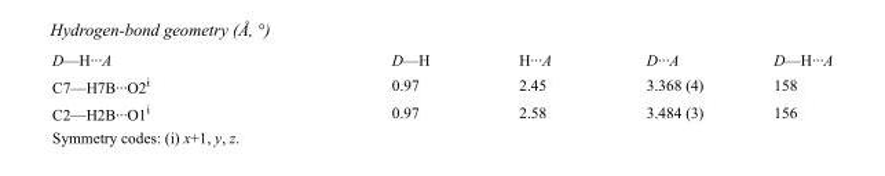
<table><tbody><tr><td>D—H···A</td><td>D—H</td><td>H···A</td><td>D···A</td><td>D—H···A</td></tr><tr><td>C7—H7B···O2<sup>i</sup></td><td>0.97</td><td>2.45</td><td>3.368 (4)</td><td>158</td></tr><tr><td>C2—H2B···O1<sup>i</sup></td><td>0.97</td><td>2.58</td><td>3.484 (3)</td><td>156</td></tr></tbody></table>